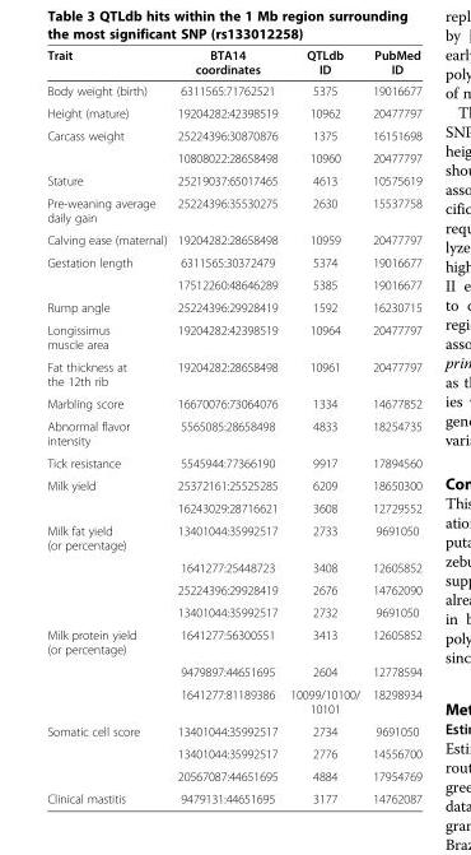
<table><thead><tr><td>Trait</td><td>BTA14 coordinates</td><td>QTLdb ID</td><td>PubMed ID</td></tr></thead><tbody><tr><td>Body weight (birth)</td><td>6311565:71762521</td><td>5375</td><td>19016677</td></tr><tr><td>Height (mature)</td><td>19204282:42398519</td><td>10962</td><td>20477797</td></tr><tr><td rowspan="2">Carcass weight</td><td>25224396:30870876</td><td>1375</td><td>16151698</td></tr><tr><td>10808022:28658498</td><td>10960</td><td>20477797</td></tr><tr><td>Stature</td><td>25219037:65017465</td><td>4613</td><td>10575619</td></tr><tr><td>Pre-weaning average daily gain</td><td>25224396:35530275</td><td>2630</td><td>15537758</td></tr><tr><td>Calving ease (maternal)</td><td>19204282:28658498</td><td>10959</td><td>20477797</td></tr><tr><td rowspan="2">Gestation length</td><td>6311565:30372479</td><td>5374</td><td>19016677</td></tr><tr><td>17512260:48646289</td><td>5385</td><td>19016677</td></tr><tr><td>Rump angle</td><td>25224396:29928419</td><td>1592</td><td>16230715</td></tr><tr><td>Longissimus muscle area</td><td>19204282:42398519</td><td>10964</td><td>20477797</td></tr><tr><td>Fat thickness at the 12th rib</td><td>19204282:28658498</td><td>10961</td><td>20477797</td></tr><tr><td>Marbling score</td><td>16670076:73064076</td><td>1334</td><td>14677852</td></tr><tr><td>Abnormal flavor intensity</td><td>5565085:28658498</td><td>4833</td><td>18254735</td></tr><tr><td>Tick resistance</td><td>5545944:77366190</td><td>9917</td><td>17894560</td></tr><tr><td rowspan="2">Milk yield</td><td>25372161:25525285</td><td>6209</td><td>18650300</td></tr><tr><td>16243029:28716621</td><td>3608</td><td>12729552</td></tr><tr><td rowspan="4">Milk fat yield (or percentage)</td><td>13401044:35992517</td><td>2733</td><td>9691050</td></tr><tr><td>1641277:25448723</td><td>3408</td><td>12605852</td></tr><tr><td>25224396:29928419</td><td>2676</td><td>14762090</td></tr><tr><td>13401044:35992517</td><td>2732</td><td>9691050</td></tr><tr><td rowspan="3">Milk protein yield (or percentage)</td><td>1641277:56300551</td><td>3413</td><td>12605852</td></tr><tr><td>9479897:44651695</td><td>2604</td><td>12778594</td></tr><tr><td>1641277:81189386</td><td>10099/10100/ 10101</td><td>18298934</td></tr><tr><td rowspan="3">Somatic cell score</td><td>13401044:35992517</td><td>2734</td><td>9691050</td></tr><tr><td>13401044:35992517</td><td>2776</td><td>14556700</td></tr><tr><td>20567087:44651695</td><td>4884</td><td>17954769</td></tr><tr><td>Clinical mastitis</td><td>9479131:44651695</td><td>3177</td><td>14762087</td></tr></tbody></table>